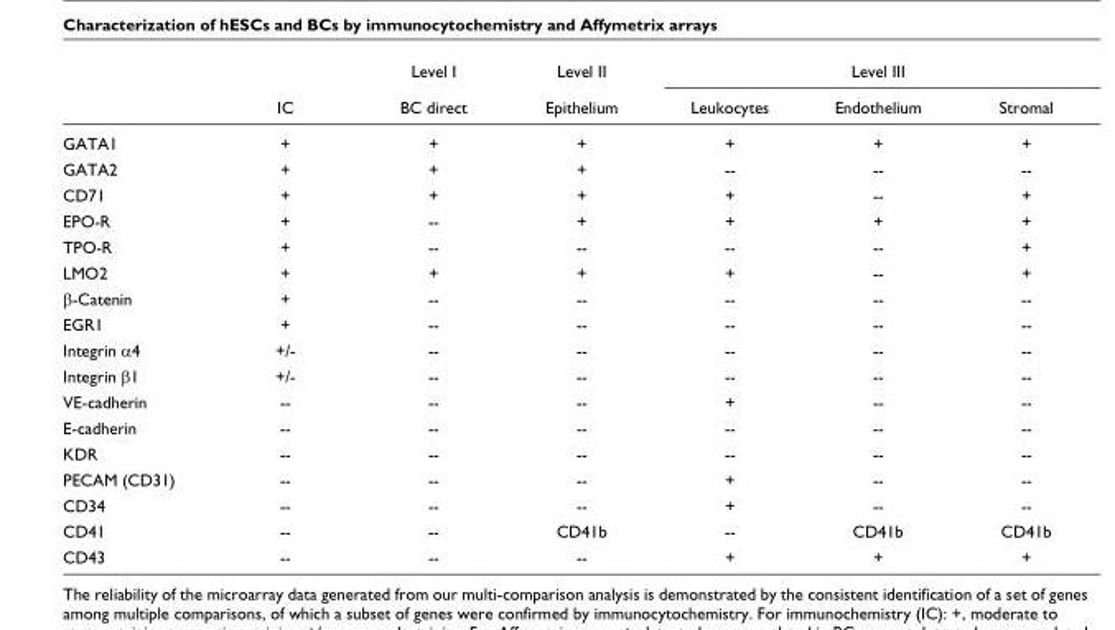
<table><thead><tr><td rowspan="2"></td><td rowspan="2">IC</td><td rowspan="2">Level I BC direct</td><td rowspan="2">Level II Epithelium</td><td colspan="3">Level III</td></tr><tr><td>Leukocytes</td><td>Endothelium</td><td>Stromal</td></tr></thead><tbody><tr><td>GATA1</td><td>+</td><td>+</td><td>+</td><td>+</td><td>+</td><td>+</td></tr><tr><td>GATA2</td><td>+</td><td>+</td><td>+</td><td>--</td><td>--</td><td>--</td></tr><tr><td>CD71</td><td>+</td><td>+</td><td>+</td><td>+</td><td>--</td><td>+</td></tr><tr><td>EPO-R</td><td>+</td><td>--</td><td>+</td><td>+</td><td>+</td><td>+</td></tr><tr><td>TPO-R</td><td>+</td><td>--</td><td>--</td><td>--</td><td>--</td><td>+</td></tr><tr><td>LMO2</td><td>+</td><td>+</td><td>+</td><td>+</td><td>--</td><td>+</td></tr><tr><td>β-Catenin</td><td>+</td><td>--</td><td>--</td><td>--</td><td>--</td><td>--</td></tr><tr><td>EGR1</td><td>+</td><td>--</td><td>--</td><td>--</td><td>--</td><td>--</td></tr><tr><td>Integrin α4</td><td>+/-</td><td>--</td><td>--</td><td>--</td><td>--</td><td>--</td></tr><tr><td>Integrin β1</td><td>+/-</td><td>--</td><td>--</td><td>--</td><td>--</td><td>--</td></tr><tr><td>VE-cadherin</td><td>--</td><td>--</td><td>--</td><td>+</td><td>--</td><td>--</td></tr><tr><td>E-cadherin</td><td>--</td><td>--</td><td>--</td><td>--</td><td>--</td><td>--</td></tr><tr><td>KDR</td><td>--</td><td>--</td><td>--</td><td>--</td><td>--</td><td>--</td></tr><tr><td>PECAM (CD31)</td><td>--</td><td>--</td><td>--</td><td>+</td><td>--</td><td>--</td></tr><tr><td>CD34</td><td>--</td><td>--</td><td>--</td><td>+</td><td>--</td><td>--</td></tr><tr><td>CD41</td><td>--</td><td>--</td><td>CD41b</td><td>--</td><td>CD41b</td><td>CD41b</td></tr><tr><td>CD43</td><td>--</td><td>--</td><td>--</td><td>+</td><td>+</td><td>+</td></tr></tbody></table>